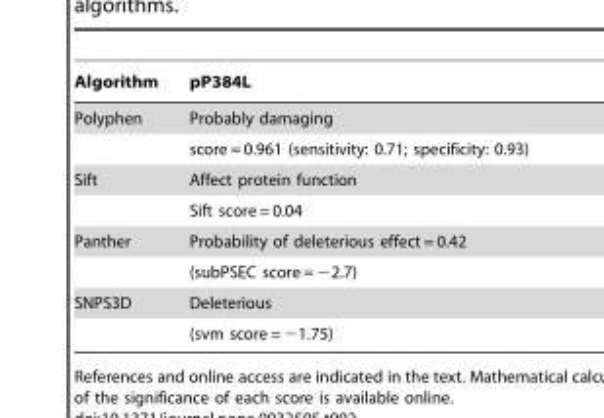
<table><thead><tr><td>Algorithm</td><td>pP384L</td></tr></thead><tbody><tr><td rowspan="2">Polyphen</td><td>Probably damaging</td></tr><tr><td>score = 0.961 (sensitivity: 0.71; specificity: 0.93)</td></tr><tr><td rowspan="2">Sift</td><td>Affect protein function</td></tr><tr><td>Sift score = 0.04</td></tr><tr><td rowspan="2">Panther</td><td>Probability of deleterious effect = 0.42</td></tr><tr><td>(subPSEC score = −2.7)</td></tr><tr><td rowspan="2">SNPS3D</td><td>Deleterious</td></tr><tr><td>(svm score = −1.75)</td></tr></tbody></table>